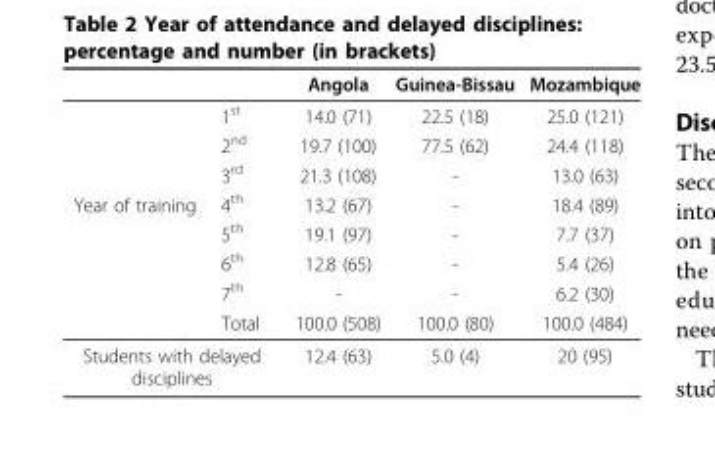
<table><thead><tr><td></td><td></td><td>Angola</td><td>Guinea-Bissau</td><td>Mozambique</td></tr></thead><tbody><tr><td></td><td>1<sup>st</sup></td><td>14.0 (71)</td><td>22.5 (18)</td><td>25.0 (121)</td></tr><tr><td></td><td>2<sup>nd</sup></td><td>19.7 (100)</td><td>77.5 (62)</td><td>24.4 (118)</td></tr><tr><td></td><td>3<sup>rd</sup></td><td>21.3 (108)</td><td>-</td><td>13.0 (63)</td></tr><tr><td rowspan="5">Year of training</td><td>4<sup>th</sup></td><td>13.2 (67)</td><td>-</td><td>18.4 (89)</td></tr><tr><td>5<sup>th</sup></td><td>19.1 (97)</td><td>-</td><td>7.7 (37)</td></tr><tr><td>6<sup>th</sup></td><td>12.8 (65)</td><td>-</td><td>5.4 (26)</td></tr><tr><td>7<sup>th</sup></td><td>-</td><td>-</td><td>6.2 (30)</td></tr><tr><td>Total</td><td>100.0 (508)</td><td>100.0 (80)</td><td>100.0 (484)</td></tr><tr><td colspan="2">Students with delayed disciplines</td><td>12.4 (63)</td><td>5.0 (4)</td><td>20 (95)</td></tr></tbody></table>